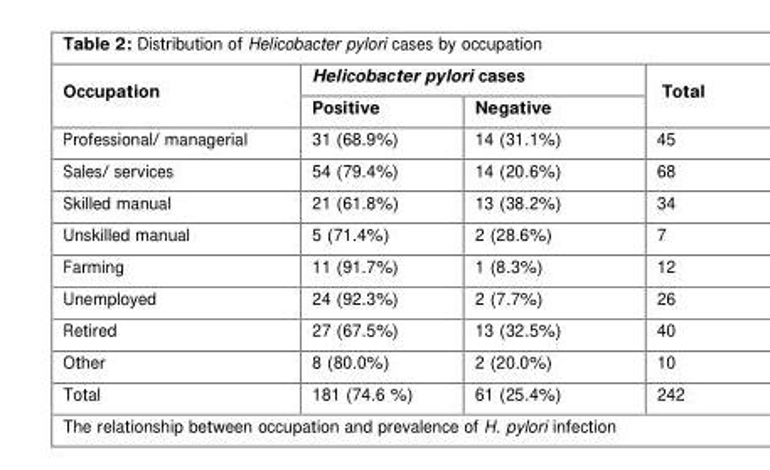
<table><thead><tr><td rowspan="2">Occupation</td><td colspan="2">Helicobacter pylori cases</td><td rowspan="2">Total</td></tr><tr><td>Positive</td><td>Negative</td></tr></thead><tbody><tr><td>Professional/ managerial</td><td>31 (68.9%)</td><td>14 (31.1%)</td><td>45</td></tr><tr><td>Sales/ services</td><td>54 (79.4%)</td><td>14 (20.6%)</td><td>68</td></tr><tr><td>Skilled manual</td><td>21 (61.8%)</td><td>13 (38.2%)</td><td>34</td></tr><tr><td>Unskilled manual</td><td>5 (71.4%)</td><td>2 (28.6%)</td><td>7</td></tr><tr><td>Farming</td><td>11 (91.7%)</td><td>1 (8.3%)</td><td>12</td></tr><tr><td>Unemployed</td><td>24 (92.3%)</td><td>2 (7.7%)</td><td>26</td></tr><tr><td>Retired</td><td>27 (67.5%)</td><td>13 (32.5%)</td><td>40</td></tr><tr><td>Other</td><td>8 (80.0%)</td><td>2 (20.0%)</td><td>10</td></tr><tr><td>Total</td><td>181 (74.6 %)</td><td>61 (25.4%)</td><td>242</td></tr></tbody></table>